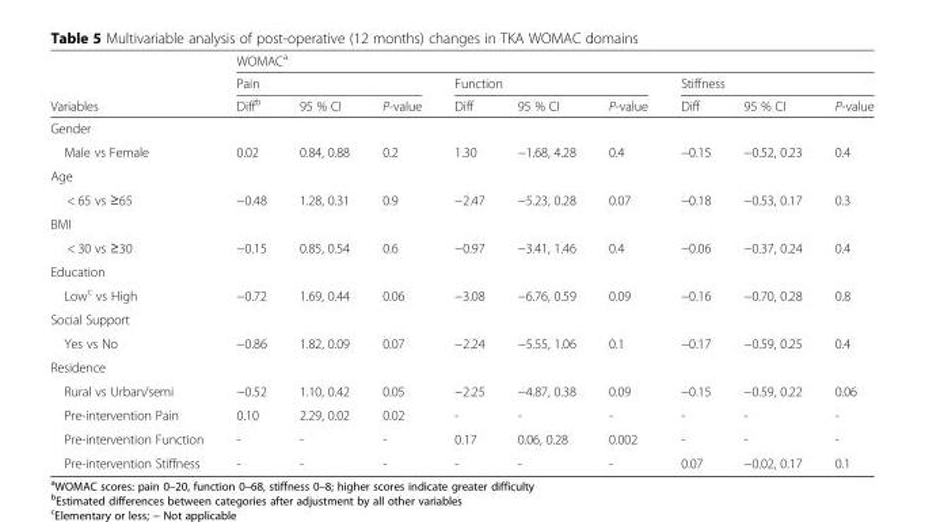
<table><thead><tr><td rowspan="3">Variables</td><td colspan="9">WOMAC<sup>a</sup></td></tr><tr><td colspan="3">Pain</td><td colspan="3">Function</td><td colspan="3">Stiffness</td></tr><tr><td>Diff<sup>b</sup></td><td>95 % CI</td><td>P-value</td><td>Diff</td><td>95 % CI</td><td>P-value</td><td>Diff</td><td>95 % CI</td><td>P-value</td></tr></thead><tbody><tr><td colspan="10">Gender</td></tr><tr><td>Male vs Female</td><td>0.02</td><td>0.84, 0.88</td><td>0.2</td><td>1.30</td><td>−1.68, 4.28</td><td>0.4</td><td>−0.15</td><td>−0.52, 0.23</td><td>0.4</td></tr><tr><td colspan="10">Age</td></tr><tr><td>&lt; 65 vs ≥65</td><td>−0.48</td><td>1.28, 0.31</td><td>0.9</td><td>−2.47</td><td>−5.23, 0.28</td><td>0.07</td><td>−0.18</td><td>−0.53, 0.17</td><td>0.3</td></tr><tr><td colspan="10">BMI</td></tr><tr><td>&lt; 30 vs ≥30</td><td>−0.15</td><td>0.85, 0.54</td><td>0.6</td><td>−0.97</td><td>−3.41, 1.46</td><td>0.4</td><td>−0.06</td><td>−0.37, 0.24</td><td>0.4</td></tr><tr><td colspan="10">Education</td></tr><tr><td>Low<sup>c</sup> vs High</td><td>−0.72</td><td>1.69, 0.44</td><td>0.06</td><td>−3.08</td><td>−6.76, 0.59</td><td>0.09</td><td>−0.16</td><td>−0.70, 0.28</td><td>0.8</td></tr><tr><td colspan="10">Social Support</td></tr><tr><td>Yes vs No</td><td>−0.86</td><td>1.82, 0.09</td><td>0.07</td><td>−2.24</td><td>−5.55, 1.06</td><td>0.1</td><td>−0.17</td><td>−0.59, 0.25</td><td>0.4</td></tr><tr><td colspan="10">Residence</td></tr><tr><td>Rural vs Urban/semi</td><td>−0.52</td><td>1.10, 0.42</td><td>0.05</td><td>−2.25</td><td>−4.87, 0.38</td><td>0.09</td><td>−0.15</td><td>−0.59, 0.22</td><td>0.06</td></tr><tr><td>Pre-intervention Pain</td><td>0.10</td><td>2.29, 0.02</td><td>0.02</td><td>-</td><td>-</td><td>-</td><td>-</td><td>-</td><td>-</td></tr><tr><td>Pre-intervention Function</td><td>-</td><td>-</td><td>-</td><td>0.17</td><td>0.06, 0.28</td><td>0.002</td><td>-</td><td>-</td><td>-</td></tr><tr><td>Pre-intervention Stiffness</td><td>-</td><td>-</td><td>-</td><td>-</td><td>-</td><td>-</td><td>0.07</td><td>−0.02, 0.17</td><td>0.1</td></tr></tbody></table>